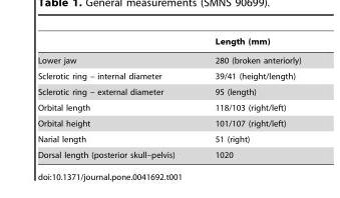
<table><thead><tr><td></td><td>Length (mm)</td></tr></thead><tbody><tr><td>Lower jaw</td><td>280 (broken anteriorly)</td></tr><tr><td>Sclerotic ring – internal diameter</td><td>39/41 (height/length)</td></tr><tr><td>Sclerotic ring – external diameter</td><td>95 (length)</td></tr><tr><td>Orbital length</td><td>118/103 (right/left)</td></tr><tr><td>Orbital height</td><td>101/107 (right/left)</td></tr><tr><td>Narial length</td><td>51 (right)</td></tr><tr><td>Dorsal length (posterior skull–pelvis)</td><td>1020</td></tr></tbody></table>